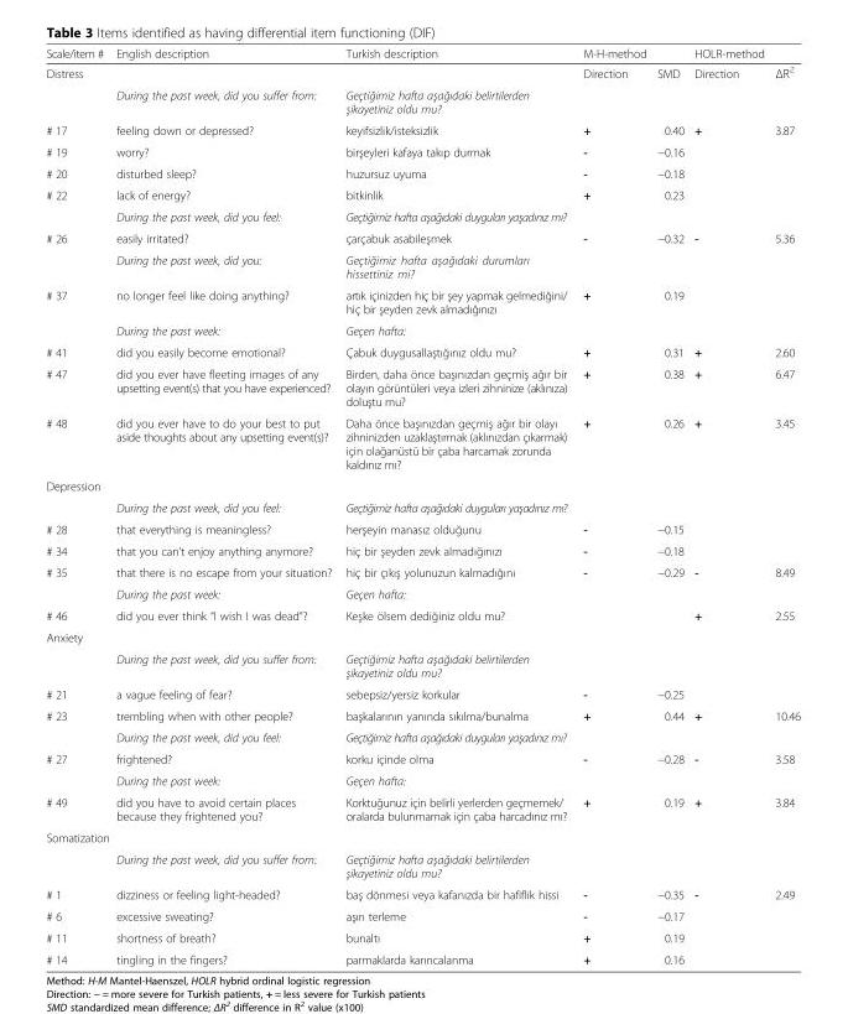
<table><thead><tr><td>Scale/item #</td><td>English description</td><td>Turkish description</td><td>M-H-method</td><td></td><td>HOLR-method</td><td></td></tr></thead><tbody><tr><td colspan="2">Distress</td><td></td><td>Direction</td><td>SMD</td><td>Direction</td><td>ΔR<sup>2</sup></td></tr><tr><td></td><td>During the past week, did you suffer from:</td><td>Geçtiğimiz hafta aşağıdaki belirtilerden şikayetiniz oldu mu?</td><td></td><td></td><td></td><td></td></tr><tr><td># 17</td><td>feeling down or depressed?</td><td>keyifsizlik/isteksizlik</td><td>+</td><td>0.40</td><td>+</td><td>3.87</td></tr><tr><td># 19</td><td>worry?</td><td>birşeyleri kafaya takıp durmak</td><td>-</td><td>−0.16</td><td></td><td></td></tr><tr><td># 20</td><td>disturbed sleep?</td><td>huzursuz uyuma</td><td>-</td><td>−0.18</td><td></td><td></td></tr><tr><td rowspan="2"># 22</td><td>lack of energy?</td><td>bitkinlik</td><td>+</td><td>0.23</td><td></td><td></td></tr><tr><td>During the past week, did you feel:</td><td>Geçtiğimiz hafta aşağıdaki duyguları yaşadınız mı?</td><td></td><td></td><td></td><td></td></tr><tr><td rowspan="2"># 26</td><td>easily irritated?</td><td>çarçabuk asabileşmek</td><td>-</td><td>−0.32</td><td>-</td><td>5.36</td></tr><tr><td>During the past week, did you:</td><td>Geçtiğimiz hafta aşağıdaki durumları hissettiniz mi?</td><td></td><td></td><td></td><td></td></tr><tr><td rowspan="2"># 37</td><td>no longer feel like doing anything?</td><td>artık içinizden hiç bir şey yapmak gelmediğini/ hiç bir şeyden zevk almadığınızı</td><td>+</td><td>0.19</td><td></td><td></td></tr><tr><td>During the past week:</td><td>Geçen hafta:</td><td></td><td></td><td></td><td></td></tr><tr><td># 41</td><td>did you easily become emotional?</td><td>Çabuk duygusallaştığınız oldu mu?</td><td>+</td><td>0.31</td><td>+</td><td>2.60</td></tr><tr><td># 47</td><td>did you ever have fleeting images of any upsetting event(s) that you have experienced?</td><td>Birden, daha önce başınızdan geçmiş ağır bir olayın görüntüleri veya izleri zihninize (aklınıza) doluştu mu?</td><td>+</td><td>0.38</td><td>+</td><td>6.47</td></tr><tr><td># 48</td><td>did you ever have to do your best to put aside thoughts about any upsetting event(s)?</td><td>Daha önce başınızdan geçmiş ağır bir olayı zihninizden uzaklaştırmak (aklınızdan çıkarmak) için olağanüstü bir çaba harcamak zorunda kaldınız mı?</td><td>+</td><td>0.26</td><td>+</td><td>3.45</td></tr><tr><td colspan="7">Depression</td></tr><tr><td></td><td>During the past week, did you feel:</td><td>Geçtiğimiz hafta aşağıdaki duyguları yaşadınız mı?</td><td></td><td></td><td></td><td></td></tr><tr><td># 28</td><td>that everything is meaningless?</td><td>herşeyin manasız olduğunu</td><td>-</td><td>−0.15</td><td></td><td></td></tr><tr><td># 34</td><td>that you can’t enjoy anything anymore?</td><td>hiç bir şeyden zevk almadığınızı</td><td>-</td><td>−0.18</td><td></td><td></td></tr><tr><td rowspan="2"># 35</td><td>that there is no escape from your situation?</td><td>hiç bir çıkış yolunuzun kalmadığını</td><td>-</td><td>−0.29</td><td>-</td><td>8.49</td></tr><tr><td>During the past week:</td><td>Geçen hafta:</td><td></td><td></td><td></td><td></td></tr><tr><td># 46</td><td>did you ever think “I wish I was dead”?</td><td>Keşke ölsem dediğiniz oldu mu?</td><td></td><td></td><td>+</td><td>2.55</td></tr><tr><td colspan="7">Anxiety</td></tr><tr><td></td><td>During the past week, did you suffer from:</td><td>Geçtiğimiz hafta aşağıdaki belirtilerden şikayetiniz oldu mu?</td><td></td><td></td><td></td><td></td></tr><tr><td># 21</td><td>a vague feeling of fear?</td><td>sebepsiz/yersiz korkular</td><td>-</td><td>−0.25</td><td></td><td></td></tr><tr><td rowspan="2"># 23</td><td>trembling when with other people?</td><td>başkalarının yanında sıkılma/bunalma</td><td>+</td><td>0.44</td><td>+</td><td>10.46</td></tr><tr><td>During the past week, did you feel:</td><td>Geçtiğimiz hafta aşağıdaki duyguları yaşadınız mı?</td><td></td><td></td><td></td><td></td></tr><tr><td rowspan="2"># 27</td><td>frightened?</td><td>korku içinde olma</td><td>-</td><td>−0.28</td><td>-</td><td>3.58</td></tr><tr><td>During the past week:</td><td>Geçen hafta:</td><td></td><td></td><td></td><td></td></tr><tr><td># 49</td><td>did you have to avoid certain places because they frightened you?</td><td>Korktuğunuz için belirli yerlerden geçmemek/ oralarda bulunmamak için çaba harcadınız mı?</td><td>+</td><td>0.19</td><td>+</td><td>3.84</td></tr><tr><td colspan="7">Somatization</td></tr><tr><td></td><td>During the past week, did you suffer from:</td><td>Geçtiğimiz hafta aşağıdaki belirtilerden şikayetiniz oldu mu?</td><td></td><td></td><td></td><td></td></tr><tr><td># 1</td><td>dizziness or feeling light-headed?</td><td>baş dönmesi veya kafanızda bir hafiflik hissi</td><td>-</td><td>−0.35</td><td>-</td><td>2.49</td></tr><tr><td># 6</td><td>excessive sweating?</td><td>aşırı terleme</td><td>-</td><td>−0.17</td><td></td><td></td></tr><tr><td># 11</td><td>shortness of breath?</td><td>bunaltı</td><td>+</td><td>0.19</td><td></td><td></td></tr><tr><td># 14</td><td>tingling in the fingers?</td><td>parmaklarda karıncalanma</td><td>+</td><td>0.16</td><td></td><td></td></tr></tbody></table>